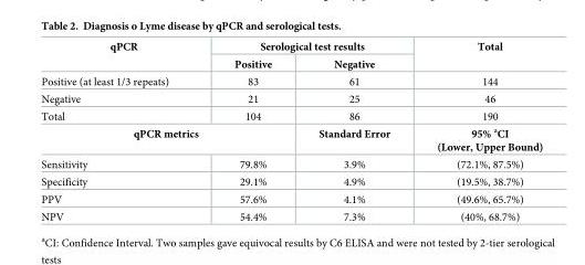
<table><tbody><tr><td rowspan="2">qPCR</td><td colspan="2">Serological test results</td><td rowspan="2">Total</td></tr><tr><td>Positive</td><td>Negative</td></tr><tr><td>Positive (at least 1/3 repeats)</td><td>83</td><td>61</td><td>144</td></tr><tr><td>Negative</td><td>21</td><td>25</td><td>46</td></tr><tr><td>Total</td><td>104</td><td>86</td><td>190</td></tr><tr><td colspan="2">qPCR metrics</td><td>Standard Error</td><td>95% <sup>a</sup>CI (Lower, Upper Bound)</td></tr><tr><td>Sensitivity</td><td>79.8%</td><td>3.9%</td><td>(72.1%, 87.5%)</td></tr><tr><td>Specificity</td><td>29.1%</td><td>4.9%</td><td>(19.5%, 38.7%)</td></tr><tr><td>PPV</td><td>57.6%</td><td>4.1%</td><td>(49.6%, 65.7%)</td></tr><tr><td>NPV</td><td>54.4%</td><td>7.3%</td><td>(40%, 68.7%)</td></tr></tbody></table>